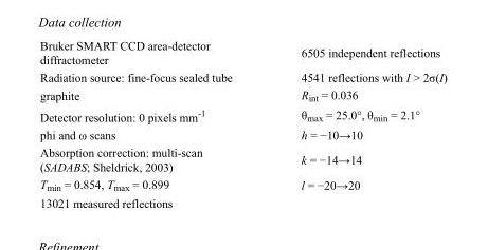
<table><tbody><tr><td>Bruker SMART CCD area-detector diffractometer</td><td>6505 independent reflections</td></tr><tr><td>Radiation source: fine-focus sealed tube</td><td>4541 reflections with I &gt; 2σ(I)</td></tr><tr><td>graphite</td><td>R<sub>int</sub> = 0.036</td></tr><tr><td>Detector resolution: 0 pixels mm<sup>-1</sup></td><td>θ<sub>max</sub> = 25.0°, θ<sub>min</sub> = 2.1°</td></tr><tr><td>phi and ω scans</td><td>h = −10→10</td></tr><tr><td>Absorption correction: multi-scan (SADABS; Sheldrick, 2003)</td><td>k = −14→14</td></tr><tr><td>T<sub>min</sub> = 0.854, T<sub>max</sub> = 0.899</td><td>l = −20→20</td></tr><tr><td>13021 measured reflections</td><td></td></tr></tbody></table>